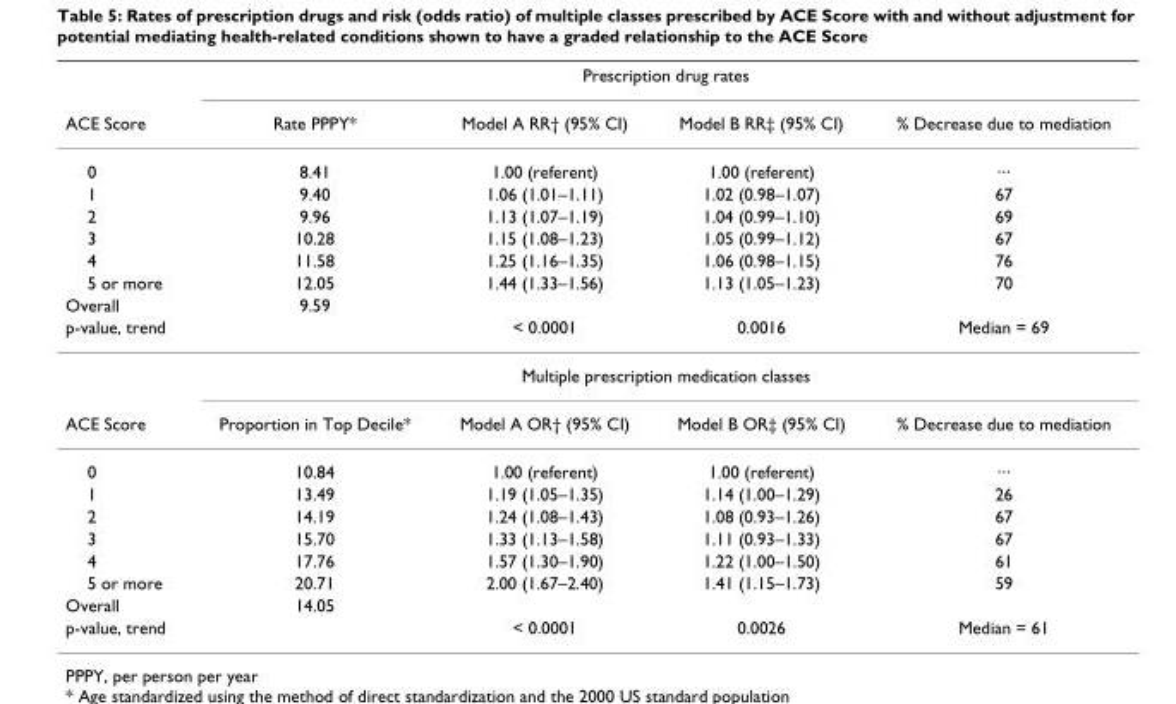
<table><thead><tr><td rowspan="2">ACE Score</td><td colspan="4">Prescription drug rates</td></tr><tr><td>Rate PPPY*</td><td>Model A RR† (95% CI)</td><td>Model B RR‡ (95% CI)</td><td>% Decrease due to mediation</td></tr></thead><tbody><tr><td>0</td><td>8.41</td><td>1.00 (referent)</td><td>1.00 (referent)</td><td>···</td></tr><tr><td>1</td><td>9.40</td><td>1.06 (1.01–1.11)</td><td>1.02 (0.98–1.07)</td><td>67</td></tr><tr><td>2</td><td>9.96</td><td>1.13 (1.07–1.19)</td><td>1.04 (0.99–1.10)</td><td>69</td></tr><tr><td>3</td><td>10.28</td><td>1.15 (1.08–1.23)</td><td>1.05 (0.99–1.12)</td><td>67</td></tr><tr><td>4</td><td>11.58</td><td>1.25 (1.16–1.35)</td><td>1.06 (0.98–1.15)</td><td>76</td></tr><tr><td>5 or more</td><td>12.05</td><td>1.44 (1.33–1.56)</td><td>1.13 (1.05–1.23)</td><td>70</td></tr><tr><td>Overall</td><td>9.59</td><td></td><td></td><td></td></tr><tr><td rowspan="2">p-value, trend</td><td></td><td>&lt; 0.0001</td><td>0.0016</td><td>Median = 69</td></tr><tr><td colspan="4">Multiple prescription medication classes</td></tr><tr><td>ACE Score</td><td>Proportion in Top Decile*</td><td>Model A OR† (95% CI)</td><td>Model B OR‡ (95% CI)</td><td>% Decrease due to mediation</td></tr><tr><td>0</td><td>10.84</td><td>1.00 (referent)</td><td>1.00 (referent)</td><td>···</td></tr><tr><td>1</td><td>13.49</td><td>1.19 (1.05–1.35)</td><td>1.14 (1.00–1.29)</td><td>26</td></tr><tr><td>2</td><td>14.19</td><td>1.24 (1.08–1.43)</td><td>1.08 (0.93–1.26)</td><td>67</td></tr><tr><td>3</td><td>15.70</td><td>1.33 (1.13–1.58)</td><td>1.11 (0.93–1.33)</td><td>67</td></tr><tr><td>4</td><td>17.76</td><td>1.57 (1.30–1.90)</td><td>1.22 (1.00–1.50)</td><td>61</td></tr><tr><td>5 or more</td><td>20.71</td><td>2.00 (1.67–2.40)</td><td>1.41 (1.15–1.73)</td><td>59</td></tr><tr><td>Overall</td><td>14.05</td><td></td><td></td><td></td></tr><tr><td>p-value, trend</td><td></td><td>&lt; 0.0001</td><td>0.0026</td><td>Median = 61</td></tr></tbody></table>